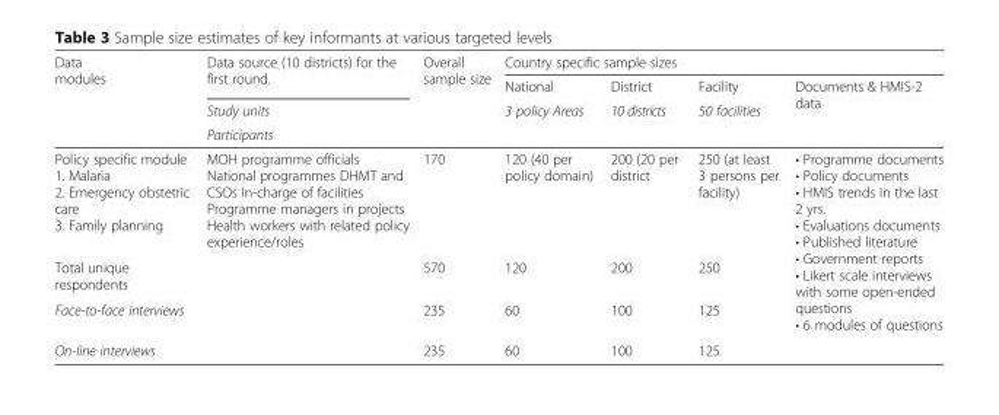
<table><thead><tr><td rowspan="4">Data modules</td><td rowspan="4">Data source (10 districts) for the first round. Study units Participants</td><td rowspan="4">Overall sample size</td><td colspan="4">Country specific sample sizes</td></tr><tr><td rowspan="3">National 3 policy Areas</td><td rowspan="3">District 10 districts</td><td rowspan="3">Facility 50 facilities</td><td rowspan="3">Documents &amp; HMIS-2 data</td></tr><tr></tr><tr></tr></thead><tbody><tr><td>Policy specific module 1. Malaria 2. Emergency obstetric care 3. Family planning</td><td>MOH programme officials National programmes DHMT and CSOs In-charge of facilities Programme managers in projects Health workers with related policy experience/roles</td><td>170</td><td>120 (40 per policy domain)</td><td>200 (20 per district</td><td>250 (at least 3 persons per facility)</td><td rowspan="3">• Programme documents • Policy documents • HMIS trends in the last 2 yrs. • Evaluations documents • Published literature • Government reports • Likert scale interviews with some open-ended questions • 6 modules of questions</td></tr><tr><td>Total unique respondents</td><td></td><td>570</td><td>120</td><td>200</td><td>250</td></tr><tr><td>Face-to-face interviews</td><td></td><td>235</td><td>60</td><td>100</td><td>125</td></tr><tr><td>On-line interviews</td><td></td><td>235</td><td>60</td><td>100</td><td>125</td><td></td></tr></tbody></table>